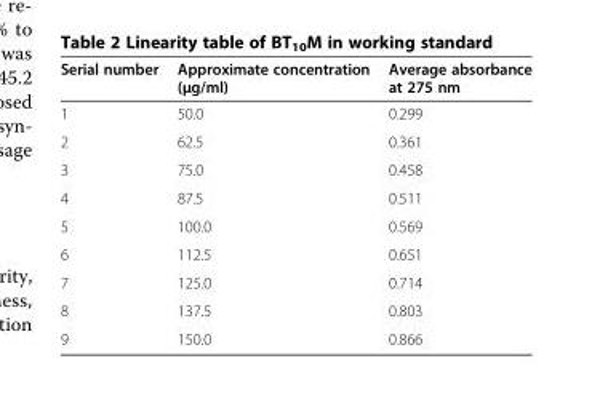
<table><thead><tr><td>Serial number</td><td>Approximate concentration (μg/ml)</td><td>Average absorbance at 275 nm</td></tr></thead><tbody><tr><td>1</td><td>50.0</td><td>0.299</td></tr><tr><td>2</td><td>62.5</td><td>0.361</td></tr><tr><td>3</td><td>75.0</td><td>0.458</td></tr><tr><td>4</td><td>87.5</td><td>0.511</td></tr><tr><td>5</td><td>100.0</td><td>0.569</td></tr><tr><td>6</td><td>112.5</td><td>0.651</td></tr><tr><td>7</td><td>125.0</td><td>0.714</td></tr><tr><td>8</td><td>137.5</td><td>0.803</td></tr><tr><td>9</td><td>150.0</td><td>0.866</td></tr></tbody></table>